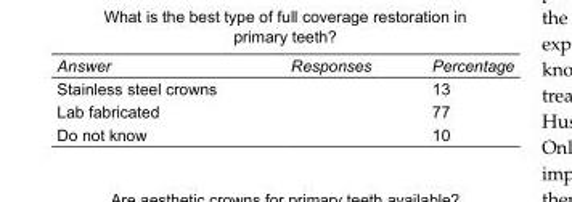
<table><tbody><tr><td>Answer</td><td>Responses</td><td>Percentage</td></tr><tr><td>Stainless steel crowns</td><td></td><td>13</td></tr><tr><td>Lab fabricated</td><td></td><td>77</td></tr><tr><td>Do not know</td><td></td><td>10</td></tr></tbody></table>